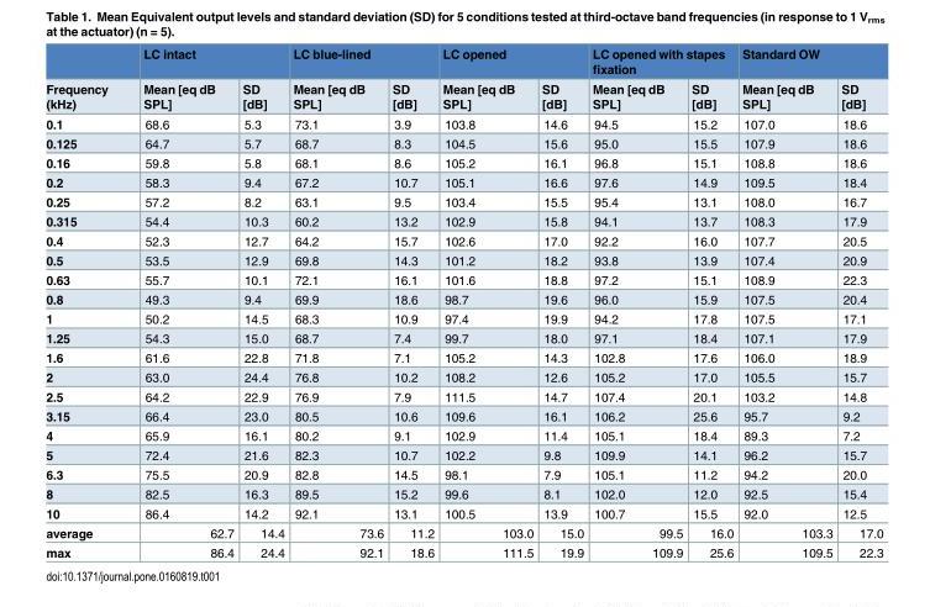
<table><thead><tr><td rowspan="2">Frequency (kHz)</td><td colspan="2">LC intact</td><td colspan="2">LC blue-lined</td><td colspan="2">LC opened</td><td colspan="2">LC opened with stapes fixation</td><td colspan="2">Standard OW</td></tr><tr><td>Mean [eq dB SPL]</td><td>SD [dB]</td><td>Mean [eq dB SPL]</td><td>SD [dB]</td><td>Mean [eq dB SPL]</td><td>SD [dB]</td><td>Mean [eq dB SPL]</td><td>SD [dB]</td><td>Mean [eq dB SPL]</td><td>SD [dB]</td></tr></thead><tbody><tr><td>0.1</td><td>68.6</td><td>5.3</td><td>73.1</td><td>3.9</td><td>103.8</td><td>14.6</td><td>94.5</td><td>15.2</td><td>107.0</td><td>18.6</td></tr><tr><td>0.125</td><td>64.7</td><td>5.7</td><td>68.7</td><td>8.3</td><td>104.5</td><td>15.6</td><td>95.0</td><td>15.5</td><td>107.9</td><td>18.6</td></tr><tr><td>0.16</td><td>59.8</td><td>5.8</td><td>68.1</td><td>8.6</td><td>105.2</td><td>16.1</td><td>96.8</td><td>15.1</td><td>108.8</td><td>18.6</td></tr><tr><td>0.2</td><td>58.3</td><td>9.4</td><td>67.2</td><td>10.7</td><td>105.1</td><td>16.6</td><td>97.6</td><td>14.9</td><td>109.5</td><td>18.4</td></tr><tr><td>0.25</td><td>57.2</td><td>8.2</td><td>63.1</td><td>9.5</td><td>103.4</td><td>15.5</td><td>95.4</td><td>13.1</td><td>108.0</td><td>16.7</td></tr><tr><td>0.315</td><td>54.4</td><td>10.3</td><td>60.2</td><td>13.2</td><td>102.9</td><td>15.8</td><td>94.1</td><td>13.7</td><td>108.3</td><td>17.9</td></tr><tr><td>0.4</td><td>52.3</td><td>12.7</td><td>64.2</td><td>15.7</td><td>102.6</td><td>17.0</td><td>92.2</td><td>16.0</td><td>107.7</td><td>20.5</td></tr><tr><td>0.5</td><td>53.5</td><td>12.9</td><td>69.8</td><td>14.3</td><td>101.2</td><td>18.2</td><td>93.8</td><td>13.9</td><td>107.4</td><td>20.9</td></tr><tr><td>0.63</td><td>55.7</td><td>10.1</td><td>72.1</td><td>16.1</td><td>101.6</td><td>18.8</td><td>97.2</td><td>15.1</td><td>108.9</td><td>22.3</td></tr><tr><td>0.8</td><td>49.3</td><td>9.4</td><td>69.9</td><td>18.6</td><td>98.7</td><td>19.6</td><td>96.0</td><td>15.9</td><td>107.5</td><td>20.4</td></tr><tr><td>1</td><td>50.2</td><td>14.5</td><td>68.3</td><td>10.9</td><td>97.4</td><td>19.9</td><td>94.2</td><td>17.8</td><td>107.5</td><td>17.1</td></tr><tr><td>1.25</td><td>54.3</td><td>15.0</td><td>68.7</td><td>7.4</td><td>99.7</td><td>18.0</td><td>97.1</td><td>18.4</td><td>107.1</td><td>17.9</td></tr><tr><td>1.6</td><td>61.6</td><td>22.8</td><td>71.8</td><td>7.1</td><td>105.2</td><td>14.3</td><td>102.8</td><td>17.6</td><td>106.0</td><td>18.9</td></tr><tr><td>2</td><td>63.0</td><td>24.4</td><td>76.8</td><td>10.2</td><td>108.2</td><td>12.6</td><td>105.2</td><td>17.0</td><td>105.5</td><td>15.7</td></tr><tr><td>2.5</td><td>64.2</td><td>22.9</td><td>76.9</td><td>7.9</td><td>111.5</td><td>14.7</td><td>107.4</td><td>20.1</td><td>103.2</td><td>14.8</td></tr><tr><td>3.15</td><td>66.4</td><td>23.0</td><td>80.5</td><td>10.6</td><td>109.6</td><td>16.1</td><td>106.2</td><td>25.6</td><td>95.7</td><td>9.2</td></tr><tr><td>4</td><td>65.9</td><td>16.1</td><td>80.2</td><td>9.1</td><td>102.9</td><td>11.4</td><td>105.1</td><td>18.4</td><td>89.3</td><td>7.2</td></tr><tr><td>5</td><td>72.4</td><td>21.6</td><td>82.3</td><td>10.7</td><td>102.2</td><td>9.8</td><td>109.9</td><td>14.1</td><td>96.2</td><td>15.7</td></tr><tr><td>6.3</td><td>75.5</td><td>20.9</td><td>82.8</td><td>14.5</td><td>98.1</td><td>7.9</td><td>105.1</td><td>11.2</td><td>94.2</td><td>20.0</td></tr><tr><td>8</td><td>82.5</td><td>16.3</td><td>89.5</td><td>15.2</td><td>99.6</td><td>8.1</td><td>102.0</td><td>12.0</td><td>92.5</td><td>15.4</td></tr><tr><td>10</td><td>86.4</td><td>14.2</td><td>92.1</td><td>13.1</td><td>100.5</td><td>13.9</td><td>100.7</td><td>15.5</td><td>92.0</td><td>12.5</td></tr><tr><td>average</td><td>62.7</td><td>14.4</td><td>73.6</td><td>11.2</td><td>103.0</td><td>15.0</td><td>99.5</td><td>16.0</td><td>103.3</td><td>17.0</td></tr><tr><td>max</td><td>86.4</td><td>24.4</td><td>92.1</td><td>18.6</td><td>111.5</td><td>19.9</td><td>109.9</td><td>25.6</td><td>109.5</td><td>22.3</td></tr></tbody></table>